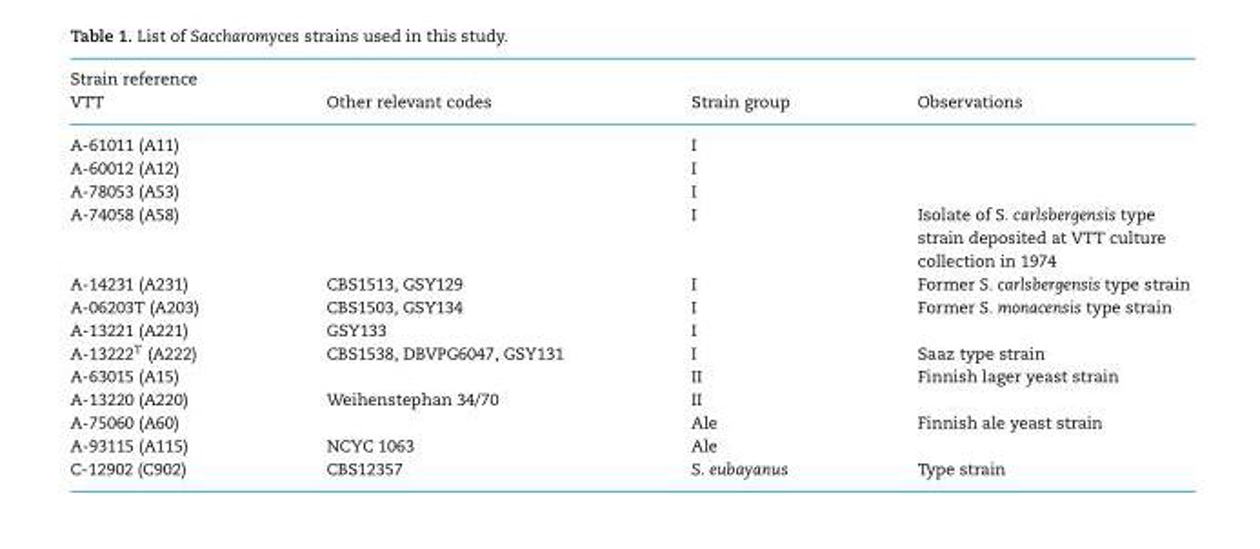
<table><thead><tr><td colspan="2">Strain reference</td><td rowspan="2">Strain group</td><td rowspan="2">Observations</td></tr><tr><td>VTT</td><td>Other relevant codes</td></tr></thead><tbody><tr><td>A-61011 (A11)</td><td></td><td>I</td><td></td></tr><tr><td>A-60012 (A12)</td><td></td><td>I</td><td></td></tr><tr><td>A-78053 (A53)</td><td></td><td>I</td><td></td></tr><tr><td>A-74058 (A58)</td><td></td><td>I</td><td>Isolate of S. carlsbergensis type strain deposited at VTT culture collection in 1974</td></tr><tr><td>A-14231 (A231)</td><td>CBS1513, GSY129</td><td>I</td><td>Former S. carlsbergensis type strain</td></tr><tr><td>A-06203T (A203)</td><td>CBS1503, GSY134</td><td>I</td><td>Former S. monacensis type strain</td></tr><tr><td>A-13221 (A221)</td><td>GSY133</td><td>I</td><td></td></tr><tr><td>A-13222<sup>T</sup> (A222)</td><td>CBS1538, DBVPG6047, GSY131</td><td>I</td><td>Saaz type strain</td></tr><tr><td>A-63015 (A15)</td><td></td><td>II</td><td>Finnish lager yeast strain</td></tr><tr><td>A-13220 (A220)</td><td>Weihenstephan 34/70</td><td>II</td><td></td></tr><tr><td>A-75060 (A60)</td><td></td><td>Ale</td><td>Finnish ale yeast strain</td></tr><tr><td>A-93115 (A115)</td><td>NCYC 1063</td><td>Ale</td><td></td></tr><tr><td>C-12902 (C902)</td><td>CBS12357</td><td>S. eubayanus</td><td>Type strain</td></tr></tbody></table>